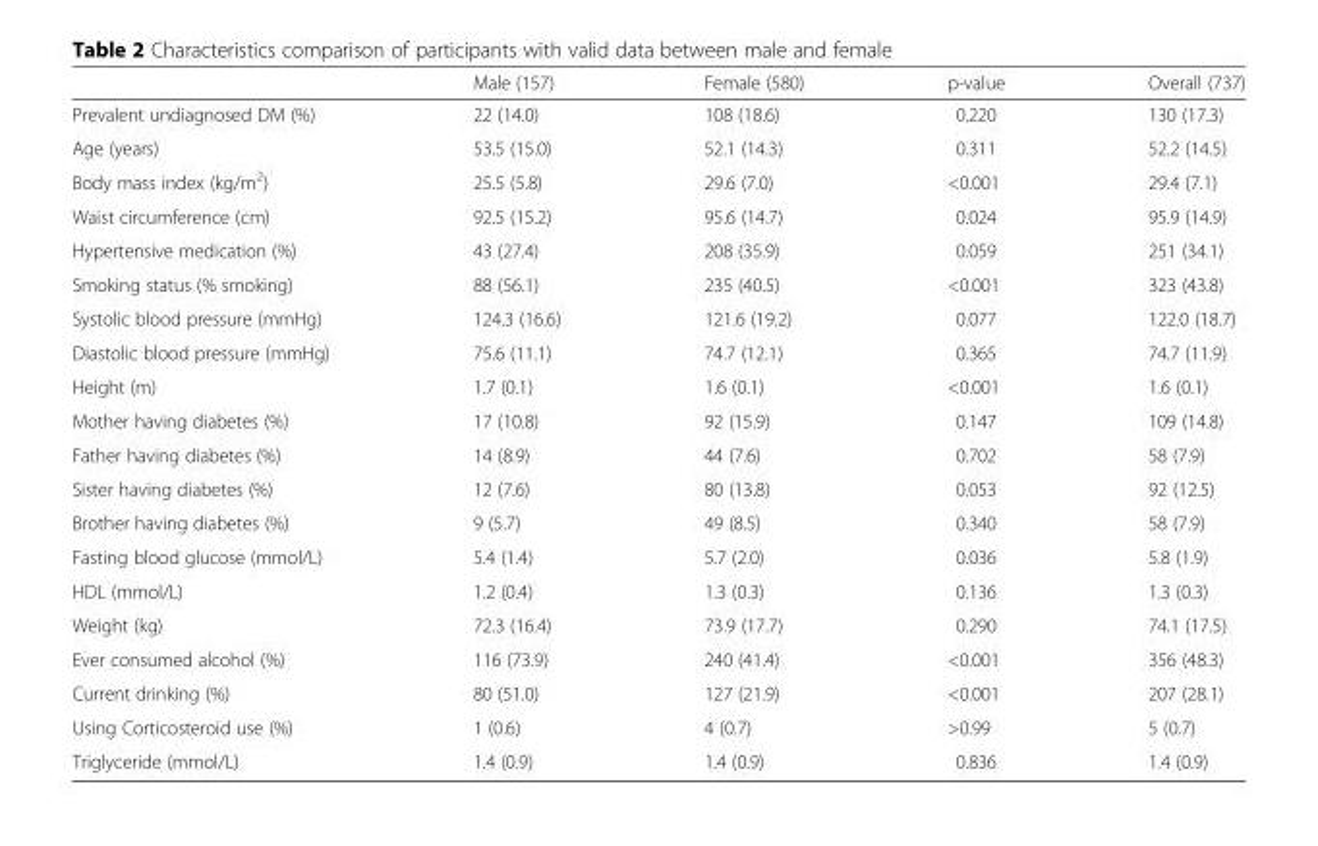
<table><thead><tr><td></td><td>Male (157)</td><td>Female (580)</td><td>p-value</td><td>Overall (737)</td></tr></thead><tbody><tr><td>Prevalent undiagnosed DM (%)</td><td>22 (14.0)</td><td>108 (18.6)</td><td>0.220</td><td>130 (17.3)</td></tr><tr><td>Age (years)</td><td>53.5 (15.0)</td><td>52.1 (14.3)</td><td>0.311</td><td>52.2 (14.5)</td></tr><tr><td>Body mass index (kg/m<sup>2</sup>)</td><td>25.5 (5.8)</td><td>29.6 (7.0)</td><td>&lt;0.001</td><td>29.4 (7.1)</td></tr><tr><td>Waist circumference (cm)</td><td>92.5 (15.2)</td><td>95.6 (14.7)</td><td>0.024</td><td>95.9 (14.9)</td></tr><tr><td>Hypertensive medication (%)</td><td>43 (27.4)</td><td>208 (35.9)</td><td>0.059</td><td>251 (34.1)</td></tr><tr><td>Smoking status (% smoking)</td><td>88 (56.1)</td><td>235 (40.5)</td><td>&lt;0.001</td><td>323 (43.8)</td></tr><tr><td>Systolic blood pressure (mmHg)</td><td>124.3 (16.6)</td><td>121.6 (19.2)</td><td>0.077</td><td>122.0 (18.7)</td></tr><tr><td>Diastolic blood pressure (mmHg)</td><td>75.6 (11.1)</td><td>74.7 (12.1)</td><td>0.365</td><td>74.7 (11.9)</td></tr><tr><td>Height (m)</td><td>1.7 (0.1)</td><td>1.6 (0.1)</td><td>&lt;0.001</td><td>1.6 (0.1)</td></tr><tr><td>Mother having diabetes (%)</td><td>17 (10.8)</td><td>92 (15.9)</td><td>0.147</td><td>109 (14.8)</td></tr><tr><td>Father having diabetes (%)</td><td>14 (8.9)</td><td>44 (7.6)</td><td>0.702</td><td>58 (7.9)</td></tr><tr><td>Sister having diabetes (%)</td><td>12 (7.6)</td><td>80 (13.8)</td><td>0.053</td><td>92 (12.5)</td></tr><tr><td>Brother having diabetes (%)</td><td>9 (5.7)</td><td>49 (8.5)</td><td>0.340</td><td>58 (7.9)</td></tr><tr><td>Fasting blood glucose (mmol/L)</td><td>5.4 (1.4)</td><td>5.7 (2.0)</td><td>0.036</td><td>5.8 (1.9)</td></tr><tr><td>HDL (mmol/L)</td><td>1.2 (0.4)</td><td>1.3 (0.3)</td><td>0.136</td><td>1.3 (0.3)</td></tr><tr><td>Weight (kg)</td><td>72.3 (16.4)</td><td>73.9 (17.7)</td><td>0.290</td><td>74.1 (17.5)</td></tr><tr><td>Ever consumed alcohol (%)</td><td>116 (73.9)</td><td>240 (41.4)</td><td>&lt;0.001</td><td>356 (48.3)</td></tr><tr><td>Current drinking (%)</td><td>80 (51.0)</td><td>127 (21.9)</td><td>&lt;0.001</td><td>207 (28.1)</td></tr><tr><td>Using Corticosteroid use (%)</td><td>1 (0.6)</td><td>4 (0.7)</td><td>&gt;0.99</td><td>5 (0.7)</td></tr><tr><td>Triglyceride (mmol/L)</td><td>1.4 (0.9)</td><td>1.4 (0.9)</td><td>0.836</td><td>1.4 (0.9)</td></tr></tbody></table>